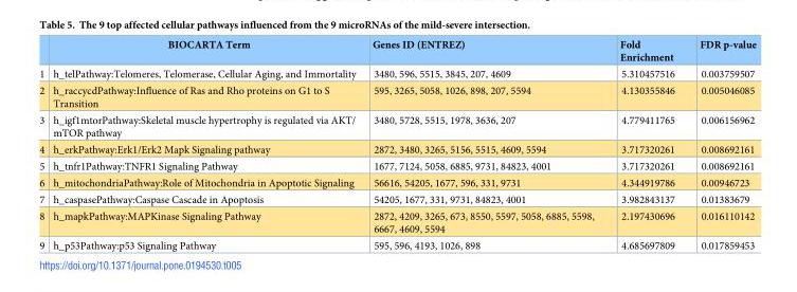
<table><thead><tr><td></td><td>BIOCARTA Term</td><td>Genes ID (ENTREZ)</td><td>Fold Enrichment</td><td>FDR p-value</td></tr></thead><tbody><tr><td>1</td><td>h_telPathway:Telomeres, Telomerase, Cellular Aging, and Immortality</td><td>3480, 596, 5515, 3845, 207, 4609</td><td>5.310457516</td><td>0.003759507</td></tr><tr><td>2</td><td>h_raccycdPathway:Influence of Ras and Rho proteins on G1 to S Transition</td><td>595, 3265, 5058, 1026, 898, 207, 5594</td><td>4.130355846</td><td>0.005046085</td></tr><tr><td>3</td><td>h_igf1mtorPathway:Skeletal muscle hypertrophy is regulated via AKT/ mTOR pathway</td><td>3480, 5728, 5515, 1978, 3636, 207</td><td>4.779411765</td><td>0.006156962</td></tr><tr><td>4</td><td>h_erkPathway:Erk1/Erk2 Mapk Signaling pathway</td><td>2872, 3480, 3265, 5156, 5515, 4609, 5594</td><td>3.717320261</td><td>0.008692161</td></tr><tr><td>5</td><td>h_tnfr1Pathway:TNFR1 Signaling Pathway</td><td>1677, 7124, 5058, 6885, 9731, 84823, 4001</td><td>3.717320261</td><td>0.008692161</td></tr><tr><td>6</td><td>h_mitochondriaPathway:Role of Mitochondria in Apoptotic Signaling</td><td>56616, 54205, 1677, 596, 331, 9731</td><td>4.344919786</td><td>0.00946723</td></tr><tr><td>7</td><td>h_caspasePathway:Caspase Cascade in Apoptosis</td><td>54205, 1677, 331, 9731, 84823, 4001</td><td>3.982843137</td><td>0.01383679</td></tr><tr><td>8</td><td>h_mapkPathway:MAPKinase Signaling Pathway</td><td>2872, 4209, 3265, 673, 8550, 5597, 5058, 6885, 5598, 6667, 4609, 5594</td><td>2.197430696</td><td>0.016110142</td></tr><tr><td>9</td><td>h_p53Pathway:p53 Signaling Pathway</td><td>595, 596, 4193, 1026, 898</td><td>4.685697809</td><td>0.017859453</td></tr></tbody></table>